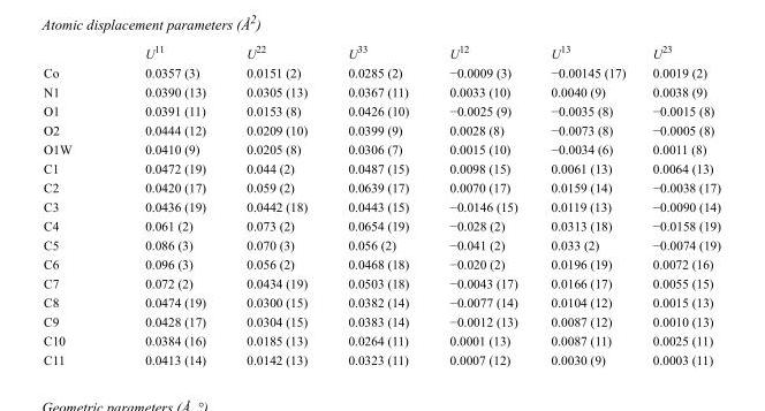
<table><thead><tr><td></td><td>U<sup>11</sup></td><td>U<sup>22</sup></td><td>U<sup>33</sup></td><td>U<sup>12</sup></td><td>U<sup>13</sup></td><td>U<sup>23</sup></td></tr></thead><tbody><tr><td>Co</td><td>0.0357 (3)</td><td>0.0151 (2)</td><td>0.0285 (2)</td><td>−0.0009 (3)</td><td>−0.00145 (17)</td><td>0.0019 (2)</td></tr><tr><td>N1</td><td>0.0390 (13)</td><td>0.0305 (13)</td><td>0.0367 (11)</td><td>0.0033 (10)</td><td>0.0040 (9)</td><td>0.0038 (9)</td></tr><tr><td>O1</td><td>0.0391 (11)</td><td>0.0153 (8)</td><td>0.0426 (10)</td><td>−0.0025 (9)</td><td>−0.0035 (8)</td><td>−0.0015 (8)</td></tr><tr><td>O2</td><td>0.0444 (12)</td><td>0.0209 (10)</td><td>0.0399 (9)</td><td>0.0028 (8)</td><td>−0.0073 (8)</td><td>−0.0005 (8)</td></tr><tr><td>O1W</td><td>0.0410 (9)</td><td>0.0205 (8)</td><td>0.0306 (7)</td><td>0.0015 (10)</td><td>−0.0034 (6)</td><td>0.0011 (8)</td></tr><tr><td>C1</td><td>0.0472 (19)</td><td>0.044 (2)</td><td>0.0487 (15)</td><td>0.0098 (15)</td><td>0.0061 (13)</td><td>0.0064 (13)</td></tr><tr><td>C2</td><td>0.0420 (17)</td><td>0.059 (2)</td><td>0.0639 (17)</td><td>0.0070 (17)</td><td>0.0159 (14)</td><td>−0.0038 (17)</td></tr><tr><td>C3</td><td>0.0436 (19)</td><td>0.0442 (18)</td><td>0.0443 (15)</td><td>−0.0146 (15)</td><td>0.0119 (13)</td><td>−0.0090 (14)</td></tr><tr><td>C4</td><td>0.061 (2)</td><td>0.073 (2)</td><td>0.0654 (19)</td><td>−0.028 (2)</td><td>0.0313 (18)</td><td>−0.0158 (19)</td></tr><tr><td>C5</td><td>0.086 (3)</td><td>0.070 (3)</td><td>0.056 (2)</td><td>−0.041 (2)</td><td>0.033 (2)</td><td>−0.0074 (19)</td></tr><tr><td>C6</td><td>0.096 (3)</td><td>0.056 (2)</td><td>0.0468 (18)</td><td>−0.020 (2)</td><td>0.0196 (19)</td><td>0.0072 (16)</td></tr><tr><td>C7</td><td>0.072 (2)</td><td>0.0434 (19)</td><td>0.0503 (18)</td><td>−0.0043 (17)</td><td>0.0166 (17)</td><td>0.0055 (15)</td></tr><tr><td>C8</td><td>0.0474 (19)</td><td>0.0300 (15)</td><td>0.0382 (14)</td><td>−0.0077 (14)</td><td>0.0104 (12)</td><td>0.0015 (13)</td></tr><tr><td>C9</td><td>0.0428 (17)</td><td>0.0304 (15)</td><td>0.0383 (14)</td><td>−0.0012 (13)</td><td>0.0087 (12)</td><td>0.0010 (13)</td></tr><tr><td>C10</td><td>0.0384 (16)</td><td>0.0185 (13)</td><td>0.0264 (11)</td><td>0.0001 (13)</td><td>0.0087 (11)</td><td>0.0025 (11)</td></tr><tr><td>C11</td><td>0.0413 (14)</td><td>0.0142 (13)</td><td>0.0323 (11)</td><td>0.0007 (12)</td><td>0.0030 (9)</td><td>0.0003 (11)</td></tr></tbody></table>